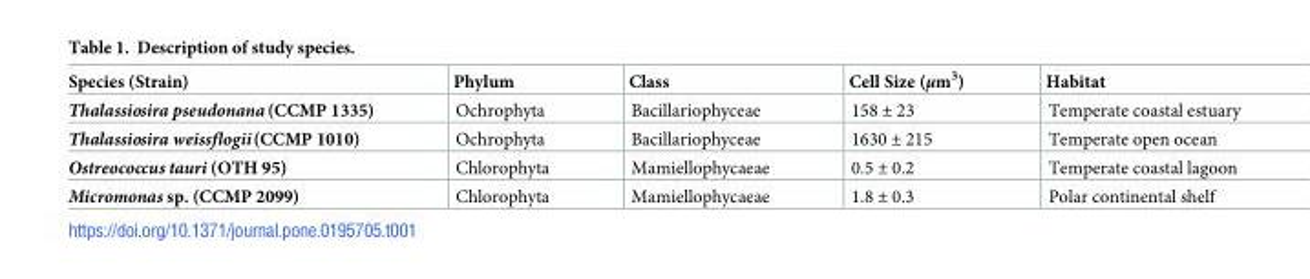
<table><thead><tr><td>Species (Strain)</td><td>Phylum</td><td>Class</td><td>Cell Size (μm<sup>3</sup>)</td><td>Habitat</td></tr></thead><tbody><tr><td>Thalassiosira pseudonana (CCMP 1335)</td><td>Ochrophyta</td><td>Bacillariophyceae</td><td>158 ± 23</td><td>Temperate coastal estuary</td></tr><tr><td>Thalassiosira weissflogii(CCMP 1010)</td><td>Ochrophyta</td><td>Bacillariophyceae</td><td>1630 ± 215</td><td>Temperate open ocean</td></tr><tr><td>Ostreococcus tauri (OTH 95)</td><td>Chlorophyta</td><td>Mamiellophycaeae</td><td>0.5 ± 0.2</td><td>Temperate coastal lagoon</td></tr><tr><td>Micromonas sp. (CCMP 2099)</td><td>Chlorophyta</td><td>Mamiellophycaeae</td><td>1.8 ± 0.3</td><td>Polar continental shelf</td></tr></tbody></table>